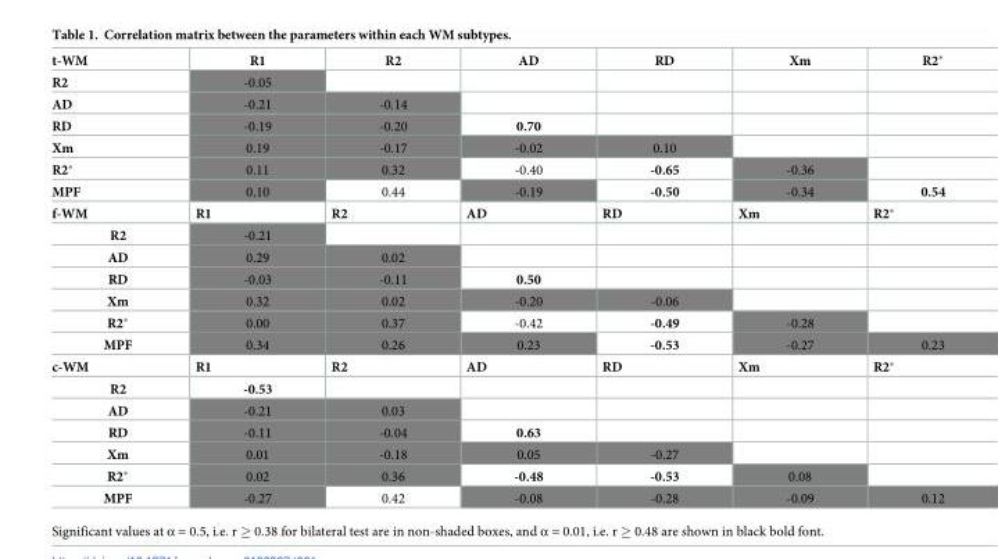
<table><tbody><tr><td>t-WM</td><td>R1</td><td>R2</td><td>AD</td><td>RD</td><td>Xm</td><td>R2*</td></tr><tr><td>R2</td><td>-0.05</td><td></td><td></td><td></td><td></td><td></td></tr><tr><td>AD</td><td>-0.21</td><td>-0.14</td><td></td><td></td><td></td><td></td></tr><tr><td>RD</td><td>-0.19</td><td>-0.20</td><td>0.70</td><td></td><td></td><td></td></tr><tr><td>Xm</td><td>0.19</td><td>-0.17</td><td>-0.02</td><td>0.10</td><td></td><td></td></tr><tr><td>R2*</td><td>0.11</td><td>0.32</td><td>-0.40</td><td>-0.65</td><td>-0.36</td><td></td></tr><tr><td>MPF</td><td>0.10</td><td>0.44</td><td>-0.19</td><td>-0.50</td><td>-0.34</td><td>0.54</td></tr><tr><td>f-WM</td><td>R1</td><td>R2</td><td>AD</td><td>RD</td><td>Xm</td><td>R2*</td></tr><tr><td>R2</td><td>-0.21</td><td></td><td></td><td></td><td></td><td></td></tr><tr><td>AD</td><td>0.29</td><td>0.02</td><td></td><td></td><td></td><td></td></tr><tr><td>RD</td><td>-0.03</td><td>-0.11</td><td>0.50</td><td></td><td></td><td></td></tr><tr><td>Xm</td><td>0.32</td><td>0.02</td><td>-0.20</td><td>-0.06</td><td></td><td></td></tr><tr><td>R2*</td><td>0.00</td><td>0.37</td><td>-0.42</td><td>-0.49</td><td>-0.28</td><td></td></tr><tr><td>MPF</td><td>0.34</td><td>0.26</td><td>0.23</td><td>-0.53</td><td>-0.27</td><td>0.23</td></tr><tr><td>c-WM</td><td>R1</td><td>R2</td><td>AD</td><td>RD</td><td>Xm</td><td>R2*</td></tr><tr><td>R2</td><td>-0.53</td><td></td><td></td><td></td><td></td><td></td></tr><tr><td>AD</td><td>-0.21</td><td>0.03</td><td></td><td></td><td></td><td></td></tr><tr><td>RD</td><td>-0.11</td><td>-0.04</td><td>0.63</td><td></td><td></td><td></td></tr><tr><td>Xm</td><td>0.01</td><td>-0.18</td><td>0.05</td><td>-0.27</td><td></td><td></td></tr><tr><td>R2*</td><td>0.02</td><td>0.36</td><td>-0.48</td><td>-0.53</td><td>0.08</td><td></td></tr><tr><td>MPF</td><td>-0.27</td><td>0.42</td><td>-0.08</td><td>-0.28</td><td>-0.09</td><td>0.12</td></tr></tbody></table>